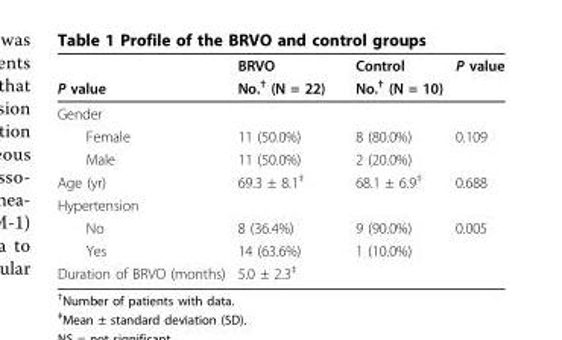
<table><thead><tr><td rowspan="2">P value</td><td rowspan="2">BRVO No.<sup>†</sup> (N = 22)</td><td rowspan="2">Control No.<sup>†</sup> (N = 10)</td><td rowspan="2">P value</td></tr><tr></tr></thead><tbody><tr><td colspan="4">Gender</td></tr><tr><td>Female</td><td>11 (50.0%)</td><td>8 (80.0%)</td><td>0.109</td></tr><tr><td>Male</td><td>11 (50.0%)</td><td>2 (20.0%)</td><td></td></tr><tr><td>Age (yr)</td><td>69.3 ± 8.1<sup>‡</sup></td><td>68.1 ± 6.9<sup>‡</sup></td><td>0.688</td></tr><tr><td colspan="4">Hypertension</td></tr><tr><td>No</td><td>8 (36.4%)</td><td>9 (90.0%)</td><td>0.005</td></tr><tr><td>Yes</td><td>14 (63.6%)</td><td>1 (10.0%)</td><td></td></tr><tr><td>Duration of BRVO (months)</td><td>5.0 ± 2.3<sup>‡</sup></td><td></td><td></td></tr></tbody></table>